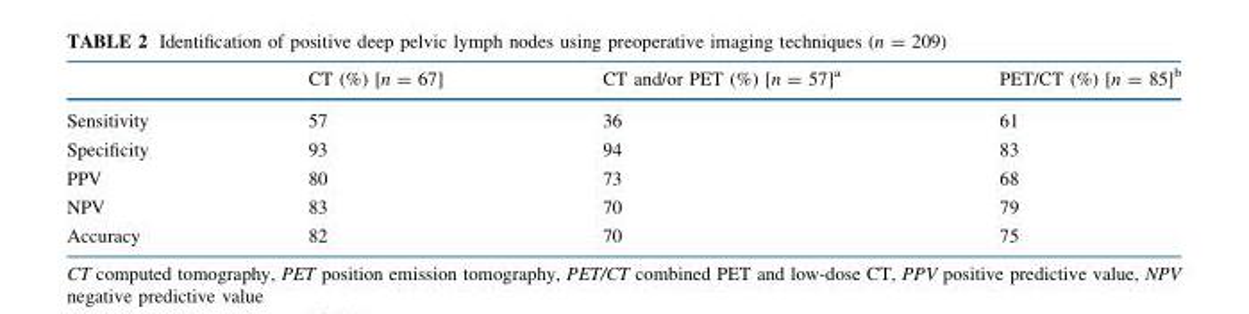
<table><thead><tr><td></td><td>CT (%) [n = 67]</td><td>CT and/or PET (%) [n = 57]<sup>a</sup></td><td>PET/CT (%) [n = 85]<sup>b</sup></td></tr></thead><tbody><tr><td>Sensitivity</td><td>57</td><td>36</td><td>61</td></tr><tr><td>Specificity</td><td>93</td><td>94</td><td>83</td></tr><tr><td>PPV</td><td>80</td><td>73</td><td>68</td></tr><tr><td>NPV</td><td>83</td><td>70</td><td>79</td></tr><tr><td>Accuracy</td><td>82</td><td>70</td><td>75</td></tr></tbody></table>